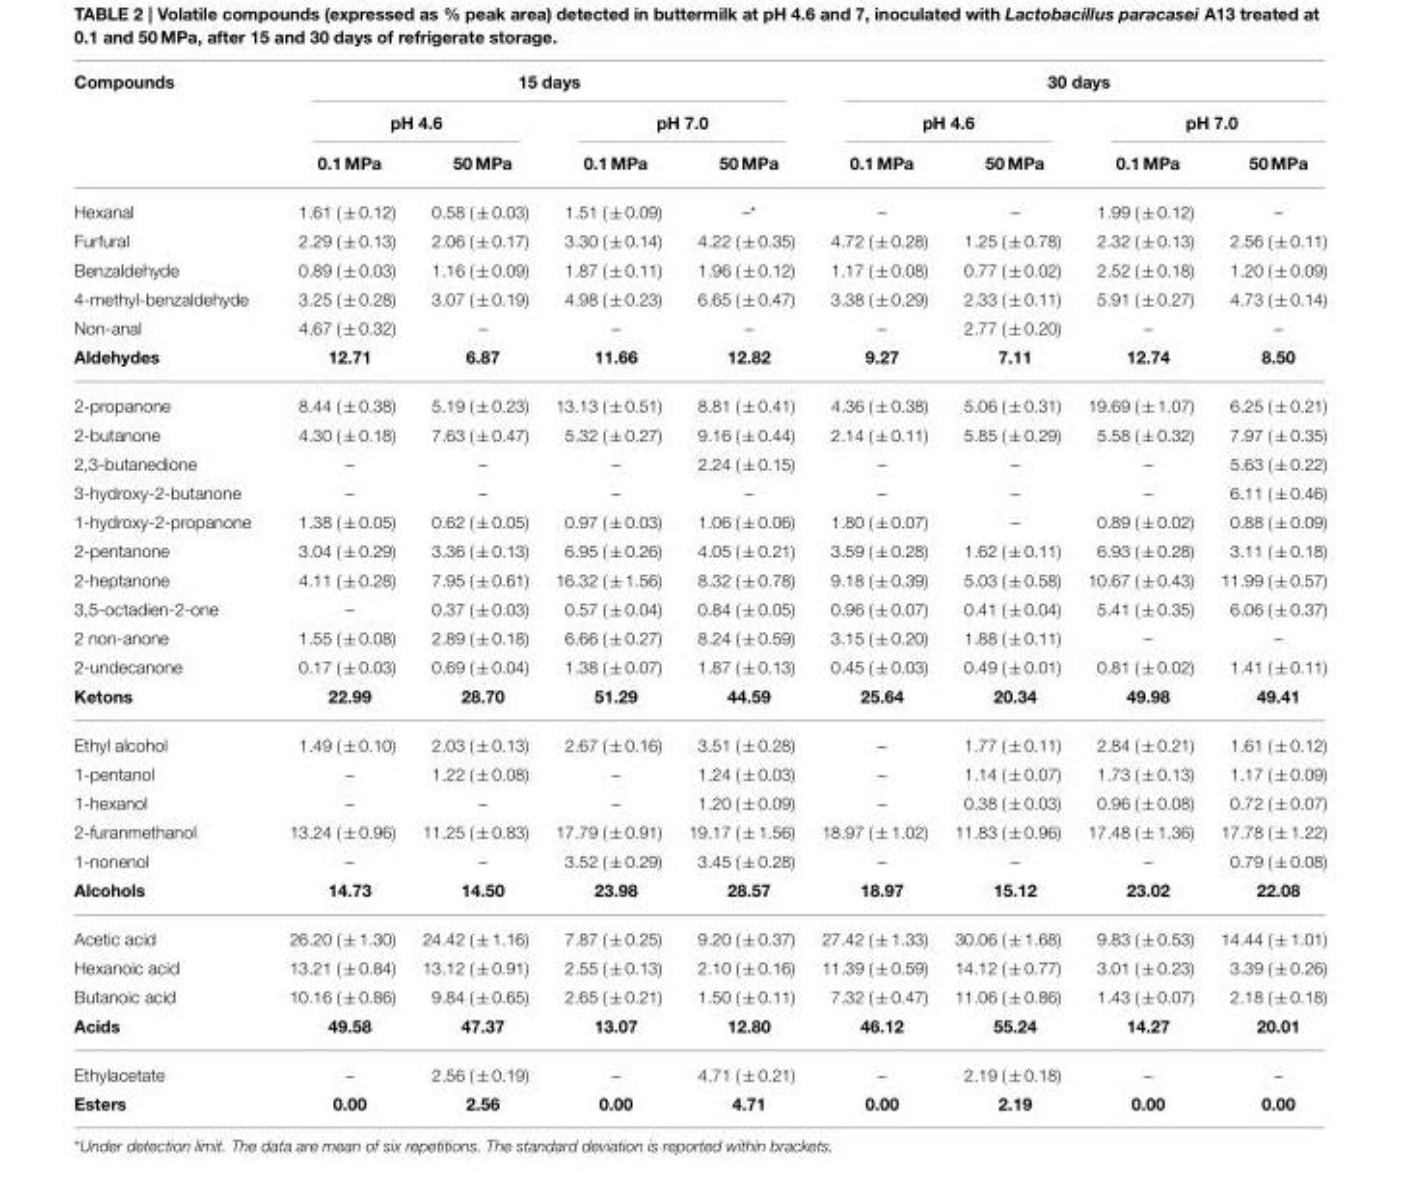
<table><thead><tr><td rowspan="3">Compounds</td><td colspan="4">15 days</td><td colspan="4">30 days</td></tr><tr><td colspan="2">pH 4.6</td><td colspan="2">pH 7.0</td><td colspan="2">pH 4.6</td><td colspan="2">pH 7.0</td></tr><tr><td>0.1 MPa</td><td>50 MPa</td><td>0.1 MPa</td><td>50 MPa</td><td>0.1 MPa</td><td>50 MPa</td><td>0.1 MPa</td><td>50 MPa</td></tr></thead><tbody><tr><td>Hexanal</td><td>1.61 ( ± 0.12)</td><td>0.58 ( ± 0.03)</td><td>1.51 ( ± 0.09)</td><td>–*</td><td>–</td><td>–</td><td>1.99 ( ± 0.12)</td><td>–</td></tr><tr><td>Furfural</td><td>2.29 ( ± 0.13)</td><td>2.06 ( ± 0.17)</td><td>3.30 ( ± 0.14)</td><td>4.22 ( ± 0.35)</td><td>4.72 ( ± 0.28)</td><td>1.25 ( ± 0.78)</td><td>2.32 ( ± 0.13)</td><td>2.56 ( ± 0.11)</td></tr><tr><td>Benzaldehyde</td><td>0.89 ( ± 0.03)</td><td>1.16 ( ± 0.09)</td><td>1.87 ( ± 0.11)</td><td>1.96 ( ± 0.12)</td><td>1.17 ( ± 0.08)</td><td>0.77 ( ± 0.02)</td><td>2.52 ( ± 0.18)</td><td>1.20 ( ± 0.09)</td></tr><tr><td>4-methyl-benzaldehyde</td><td>3.25 ( ± 0.28)</td><td>3.07 ( ± 0.19)</td><td>4.98 ( ± 0.23)</td><td>6.65 ( ± 0.47)</td><td>3.38 ( ± 0.29)</td><td>2.33 ( ± 0.11)</td><td>5.91 ( ± 0.27)</td><td>4.73 ( ± 0.14)</td></tr><tr><td>Non-anal</td><td>4.67 ( ± 0.32)</td><td>–</td><td>–</td><td>–</td><td>–</td><td>2.77 ( ± 0.20)</td><td>–</td><td>–</td></tr><tr><td>Aldehydes</td><td>12.71</td><td>6.87</td><td>11.66</td><td>12.82</td><td>9.27</td><td>7.11</td><td>12.74</td><td>8.50</td></tr><tr><td>2-propanone</td><td>8.44 ( ± 0.38)</td><td>5.19 ( ± 0.23)</td><td>13.13 ( ± 0.51)</td><td>8.81 ( ± 0.41)</td><td>4.36 ( ± 0.38)</td><td>5.06 ( ± 0.31)</td><td>19.69 ( ± 1.07)</td><td>6.25 ( ± 0.21)</td></tr><tr><td>2-butanone</td><td>4.30 ( ± 0.18)</td><td>7.63 ( ± 0.47)</td><td>5.32 ( ± 0.27)</td><td>9.16 ( ± 0.44)</td><td>2.14 ( ± 0.11)</td><td>5.85 ( ± 0.29)</td><td>5.58 ( ± 0.32)</td><td>7.97 ( ± 0.35)</td></tr><tr><td>2,3-butanedione</td><td>–</td><td>–</td><td>–</td><td>2.24 ( ± 0.15)</td><td>–</td><td>–</td><td>–</td><td>5.63 ( ± 0.22)</td></tr><tr><td>3-hydroxy-2-butanone</td><td>–</td><td>–</td><td>–</td><td>–</td><td>–</td><td>–</td><td>–</td><td>6.11 ( ± 0.46)</td></tr><tr><td>1-hydroxy-2-propanone</td><td>1.38 ( ± 0.05)</td><td>0.62 ( ± 0.05)</td><td>0.97 ( ± 0.03)</td><td>1.06 ( ± 0.06)</td><td>1.80 ( ± 0.07)</td><td>–</td><td>0.89 ( ± 0.02)</td><td>0.88 ( ± 0.09)</td></tr><tr><td>2-pentanone</td><td>3.04 ( ± 0.29)</td><td>3.36 ( ± 0.13)</td><td>6.95 ( ± 0.26)</td><td>4.05 ( ± 0.21)</td><td>3.59 ( ± 0.28)</td><td>1.62 ( ± 0.11)</td><td>6.93 ( ± 0.28)</td><td>3.11 ( ± 0.18)</td></tr><tr><td>2-heptanone</td><td>4.11 ( ± 0.28)</td><td>7.95 ( ± 0.61)</td><td>16.32 ( ± 1.56)</td><td>8.32 ( ± 0.78)</td><td>9.18 ( ± 0.39)</td><td>5.03 ( ± 0.58)</td><td>10.67 ( ± 0.43)</td><td>11.99 ( ± 0.57)</td></tr><tr><td>3,5-octadien-2-one</td><td>–</td><td>0.37 ( ± 0.03)</td><td>0.57 ( ± 0.04)</td><td>0.84 ( ± 0.05)</td><td>0.96 ( ± 0.07)</td><td>0.41 ( ± 0.04)</td><td>5.41 ( ± 0.35)</td><td>6.06 ( ± 0.37)</td></tr><tr><td>2 non-anone</td><td>1.55 ( ± 0.08)</td><td>2.89 ( ± 0.18)</td><td>6.66 ( ± 0.27)</td><td>8.24 ( ± 0.59)</td><td>3.15 ( ± 0.20)</td><td>1.88 ( ± 0.11)</td><td>–</td><td>–</td></tr><tr><td>2-undecanone</td><td>0.17 ( ± 0.03)</td><td>0.69 ( ± 0.04)</td><td>1.38 ( ± 0.07)</td><td>1.87 ( ± 0.13)</td><td>0.45 ( ± 0.03)</td><td>0.49 ( ± 0.01)</td><td>0.81 ( ± 0.02)</td><td>1.41 ( ± 0.11)</td></tr><tr><td>Ketons</td><td>22.99</td><td>28.70</td><td>51.29</td><td>44.59</td><td>25.64</td><td>20.34</td><td>49.98</td><td>49.41</td></tr><tr><td>Ethyl alcohol</td><td>1.49 ( ± 0.10)</td><td>2.03 ( ± 0.13)</td><td>2.67 ( ± 0.16)</td><td>3.51 ( ± 0.28)</td><td>–</td><td>1.77 ( ± 0.11)</td><td>2.84 ( ± 0.21)</td><td>1.61 ( ± 0.12)</td></tr><tr><td>1-pentanol</td><td>–</td><td>1.22 ( ± 0.08)</td><td>–</td><td>1.24 ( ± 0.03)</td><td>–</td><td>1.14 ( ± 0.07)</td><td>1.73 ( ± 0.13)</td><td>1.17 ( ± 0.09)</td></tr><tr><td>1-hexanol</td><td>–</td><td>–</td><td>–</td><td>1.20 ( ± 0.09)</td><td>–</td><td>0.38 ( ± 0.03)</td><td>0.96 ( ± 0.08)</td><td>0.72 ( ± 0.07)</td></tr><tr><td>2-furanmethanol</td><td>13.24 ( ± 0.96)</td><td>11.25 ( ± 0.83)</td><td>17.79 ( ± 0.91)</td><td>19.17 ( ± 1.56)</td><td>18.97 ( ± 1.02)</td><td>11.83 ( ± 0.96)</td><td>17.48 ( ± 1.36)</td><td>17.78 ( ± 1.22)</td></tr><tr><td>1-nonenol</td><td>–</td><td>–</td><td>3.52 ( ± 0.29)</td><td>3.45 ( ± 0.28)</td><td>–</td><td>–</td><td>–</td><td>0.79 ( ± 0.08)</td></tr><tr><td>Alcohols</td><td>14.73</td><td>14.50</td><td>23.98</td><td>28.57</td><td>18.97</td><td>15.12</td><td>23.02</td><td>22.08</td></tr><tr><td>Acetic acid</td><td>26.20 ( ± 1.30)</td><td>24.42 ( ± 1.16)</td><td>7.87 ( ± 0.25)</td><td>9.20 ( ± 0.37)</td><td>27.42 ( ± 1.33)</td><td>30.06 ( ± 1.68)</td><td>9.83 ( ± 0.53)</td><td>14.44 ( ± 1.01)</td></tr><tr><td>Hexanoic acid</td><td>13.21 ( ± 0.84)</td><td>13.12 ( ± 0.91)</td><td>2.55 ( ± 0.13)</td><td>2.10 ( ± 0.16)</td><td>11.39 ( ± 0.59)</td><td>14.12 ( ± 0.77)</td><td>3.01 ( ± 0.23)</td><td>3.39 ( ± 0.26)</td></tr><tr><td>Butanoic acid</td><td>10.16 ( ± 0.86)</td><td>9.84 ( ± 0.65)</td><td>2.65 ( ± 0.21)</td><td>1.50 ( ± 0.11)</td><td>7.32 ( ± 0.47)</td><td>11.06 ( ± 0.86)</td><td>1.43 ( ± 0.07)</td><td>2.18 ( ± 0.18)</td></tr><tr><td>Acids</td><td>49.58</td><td>47.37</td><td>13.07</td><td>12.80</td><td>46.12</td><td>55.24</td><td>14.27</td><td>20.01</td></tr><tr><td>Ethylacetate</td><td>–</td><td>2.56 ( ± 0.19)</td><td>–</td><td>4.71 ( ± 0.21)</td><td>–</td><td>2.19 ( ± 0.18)</td><td>–</td><td>–</td></tr><tr><td>Esters</td><td>0.00</td><td>2.56</td><td>0.00</td><td>4.71</td><td>0.00</td><td>2.19</td><td>0.00</td><td>0.00</td></tr></tbody></table>